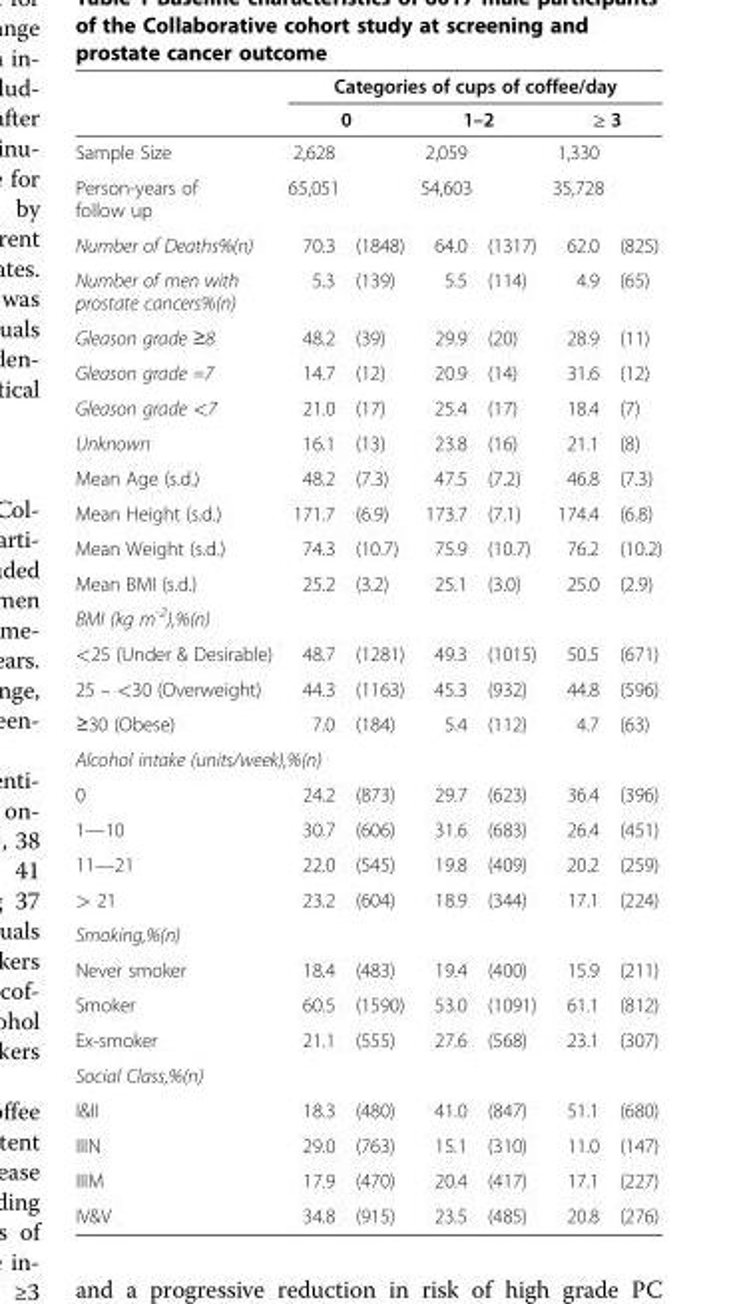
<table><thead><tr><td rowspan="3">Sample Size</td><td colspan="6">Categories of cups of coffee/day</td></tr><tr><td colspan="2">0</td><td colspan="2">1–2</td><td colspan="2">≥ 3</td></tr><tr><td>2,628</td><td></td><td>2,059</td><td></td><td>1,330</td><td></td></tr></thead><tbody><tr><td>Person-years of follow up</td><td>65,051</td><td></td><td>54,603</td><td></td><td>35,728</td><td></td></tr><tr><td>Number of Deaths%(n)</td><td>70.3</td><td>(1848)</td><td>64.0</td><td>(1317)</td><td>62.0</td><td>(825)</td></tr><tr><td>Number of men with prostate cancers%(n)</td><td>5.3</td><td>(139)</td><td>5.5</td><td>(114)</td><td>4.9</td><td>(65)</td></tr><tr><td>Gleason grade ≥8</td><td>48.2</td><td>(39)</td><td>29.9</td><td>(20)</td><td>28.9</td><td>(11)</td></tr><tr><td>Gleason grade =7</td><td>14.7</td><td>(12)</td><td>20.9</td><td>(14)</td><td>31.6</td><td>(12)</td></tr><tr><td>Gleason grade &lt;7</td><td>21.0</td><td>(17)</td><td>25.4</td><td>(17)</td><td>18.4</td><td>(7)</td></tr><tr><td>Unknown</td><td>16.1</td><td>(13)</td><td>23.8</td><td>(16)</td><td>21.1</td><td>(8)</td></tr><tr><td>Mean Age (s.d.)</td><td>48.2</td><td>(7.3)</td><td>47.5</td><td>(7.2)</td><td>46.8</td><td>(7.3)</td></tr><tr><td>Mean Height (s.d.)</td><td>171.7</td><td>(6.9)</td><td>173.7</td><td>(7.1)</td><td>174.4</td><td>(6.8)</td></tr><tr><td>Mean Weight (s.d.)</td><td>74.3</td><td>(10.7)</td><td>75.9</td><td>(10.7)</td><td>76.2</td><td>(10.2)</td></tr><tr><td>Mean BMI (s.d.)</td><td>25.2</td><td>(3.2)</td><td>25.1</td><td>(3.0)</td><td>25.0</td><td>(2.9)</td></tr><tr><td colspan="7">BMI (kg m<sup>-2</sup>),%(n)</td></tr><tr><td>&lt;25 (Under &amp; Desirable)</td><td>48.7</td><td>(1281)</td><td>49.3</td><td>(1015)</td><td>50.5</td><td>(671)</td></tr><tr><td>25 – &lt;30 (Overweight)</td><td>44.3</td><td>(1163)</td><td>45.3</td><td>(932)</td><td>44.8</td><td>(596)</td></tr><tr><td>≥30 (Obese)</td><td>7.0</td><td>(184)</td><td>5.4</td><td>(112)</td><td>4.7</td><td>(63)</td></tr><tr><td colspan="7">Alcohol intake (units/week),%(n)</td></tr><tr><td>0</td><td>24.2</td><td>(873)</td><td>29.7</td><td>(623)</td><td>36.4</td><td>(396)</td></tr><tr><td>1—10</td><td>30.7</td><td>(606)</td><td>31.6</td><td>(683)</td><td>26.4</td><td>(451)</td></tr><tr><td>11—21</td><td>22.0</td><td>(545)</td><td>19.8</td><td>(409)</td><td>20.2</td><td>(259)</td></tr><tr><td>&gt; 21</td><td>23.2</td><td>(604)</td><td>18.9</td><td>(344)</td><td>17.1</td><td>(224)</td></tr><tr><td colspan="7">Smoking,%(n)</td></tr><tr><td>Never smoker</td><td>18.4</td><td>(483)</td><td>19.4</td><td>(400)</td><td>15.9</td><td>(211)</td></tr><tr><td>Smoker</td><td>60.5</td><td>(1590)</td><td>53.0</td><td>(1091)</td><td>61.1</td><td>(812)</td></tr><tr><td>Ex-smoker</td><td>21.1</td><td>(555)</td><td>27.6</td><td>(568)</td><td>23.1</td><td>(307)</td></tr><tr><td colspan="7">Social Class,%(n)</td></tr><tr><td>I&amp;II</td><td>18.3</td><td>(480)</td><td>41.0</td><td>(847)</td><td>51.1</td><td>(680)</td></tr><tr><td>IIIN</td><td>29.0</td><td>(763)</td><td>15.1</td><td>(310)</td><td>11.0</td><td>(147)</td></tr><tr><td>IIIM</td><td>17.9</td><td>(470)</td><td>20.4</td><td>(417)</td><td>17.1</td><td>(227)</td></tr><tr><td>IV&amp;V</td><td>34.8</td><td>(915)</td><td>23.5</td><td>(485)</td><td>20.8</td><td>(276)</td></tr></tbody></table>